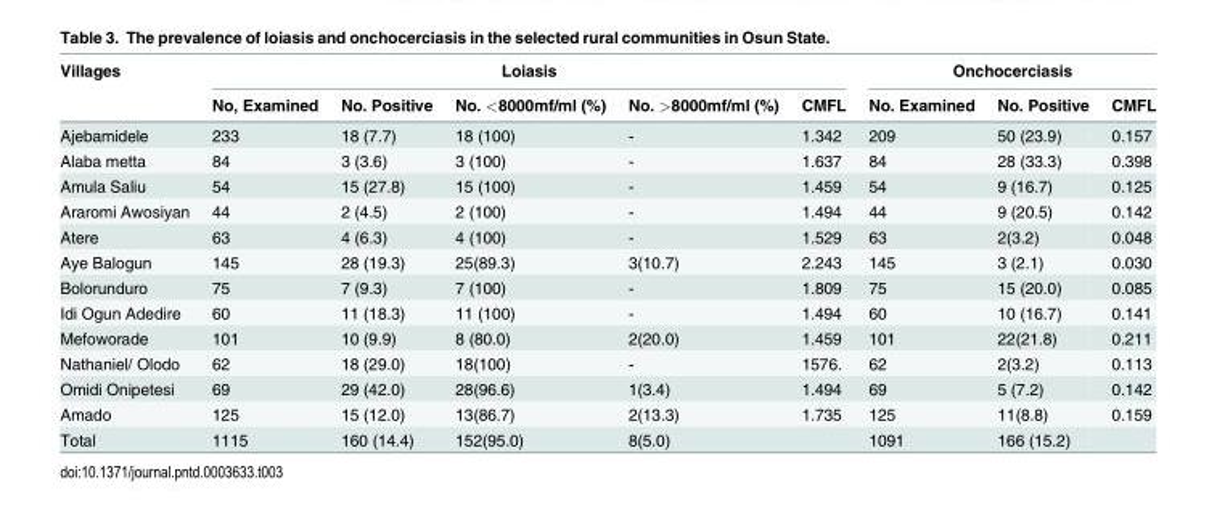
<table><thead><tr><td rowspan="2">Villages</td><td colspan="5">Loiasis</td><td colspan="3">Onchocerciasis</td></tr><tr><td>No, Examined</td><td>No. Positive</td><td>No. &lt;8000mf/ml (%)</td><td>No. &gt;8000mf/ml (%)</td><td>CMFL</td><td>No. Examined</td><td>No. Positive</td><td>CMFL</td></tr></thead><tbody><tr><td>Ajebamidele</td><td>233</td><td>18 (7.7)</td><td>18 (100)</td><td>-</td><td>1.342</td><td>209</td><td>50 (23.9)</td><td>0.157</td></tr><tr><td>Alaba metta</td><td>84</td><td>3 (3.6)</td><td>3 (100)</td><td>-</td><td>1.637</td><td>84</td><td>28 (33.3)</td><td>0.398</td></tr><tr><td>Amula Saliu</td><td>54</td><td>15 (27.8)</td><td>15 (100)</td><td>-</td><td>1.459</td><td>54</td><td>9 (16.7)</td><td>0.125</td></tr><tr><td>Araromi Awosiyan</td><td>44</td><td>2 (4.5)</td><td>2 (100)</td><td>-</td><td>1.494</td><td>44</td><td>9 (20.5)</td><td>0.142</td></tr><tr><td>Atere</td><td>63</td><td>4 (6.3)</td><td>4 (100)</td><td>-</td><td>1.529</td><td>63</td><td>2(3.2)</td><td>0.048</td></tr><tr><td>Aye Balogun</td><td>145</td><td>28 (19.3)</td><td>25(89.3)</td><td>3(10.7)</td><td>2.243</td><td>145</td><td>3 (2.1)</td><td>0.030</td></tr><tr><td>Bolorunduro</td><td>75</td><td>7 (9.3)</td><td>7 (100)</td><td>-</td><td>1.809</td><td>75</td><td>15 (20.0)</td><td>0.085</td></tr><tr><td>Idi Ogun Adedire</td><td>60</td><td>11 (18.3)</td><td>11 (100)</td><td>-</td><td>1.494</td><td>60</td><td>10 (16.7)</td><td>0.141</td></tr><tr><td>Mefoworade</td><td>101</td><td>10 (9.9)</td><td>8 (80.0)</td><td>2(20.0)</td><td>1.459</td><td>101</td><td>22(21.8)</td><td>0.211</td></tr><tr><td>Nathaniel/ Olodo</td><td>62</td><td>18 (29.0)</td><td>18(100)</td><td>-</td><td>1576.</td><td>62</td><td>2(3.2)</td><td>0.113</td></tr><tr><td>Omidi Onipetesi</td><td>69</td><td>29 (42.0)</td><td>28(96.6)</td><td>1(3.4)</td><td>1.494</td><td>69</td><td>5 (7.2)</td><td>0.142</td></tr><tr><td>Amado</td><td>125</td><td>15 (12.0)</td><td>13(86.7)</td><td>2(13.3)</td><td>1.735</td><td>125</td><td>11(8.8)</td><td>0.159</td></tr><tr><td>Total</td><td>1115</td><td>160 (14.4)</td><td>152(95.0)</td><td>8(5.0)</td><td></td><td>1091</td><td>166 (15.2)</td><td></td></tr></tbody></table>